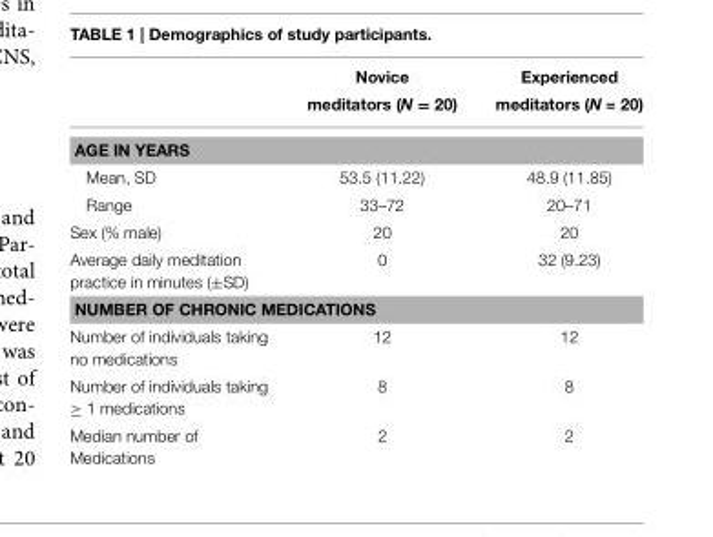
<table><thead><tr><td></td><td>Novice meditators (N = 20)</td><td>Experienced meditators (N = 20)</td></tr></thead><tbody><tr><td colspan="3">AGE IN YEARS</td></tr><tr><td>Mean, SD</td><td>53.5 (11.22)</td><td>48.9 (11.85)</td></tr><tr><td>Range</td><td>33–72</td><td>20–71</td></tr><tr><td>Sex (% male)</td><td>20</td><td>20</td></tr><tr><td>Average daily meditation practice in minutes (±SD)</td><td>0</td><td>32 (9.23)</td></tr><tr><td colspan="3">NUMBER OF CHRONIC MEDICATIONS</td></tr><tr><td>Number of individuals taking no medications</td><td>12</td><td>12</td></tr><tr><td>Number of individuals taking ≥ 1 medications</td><td>8</td><td>8</td></tr><tr><td>Median number of Medications</td><td>2</td><td>2</td></tr></tbody></table>